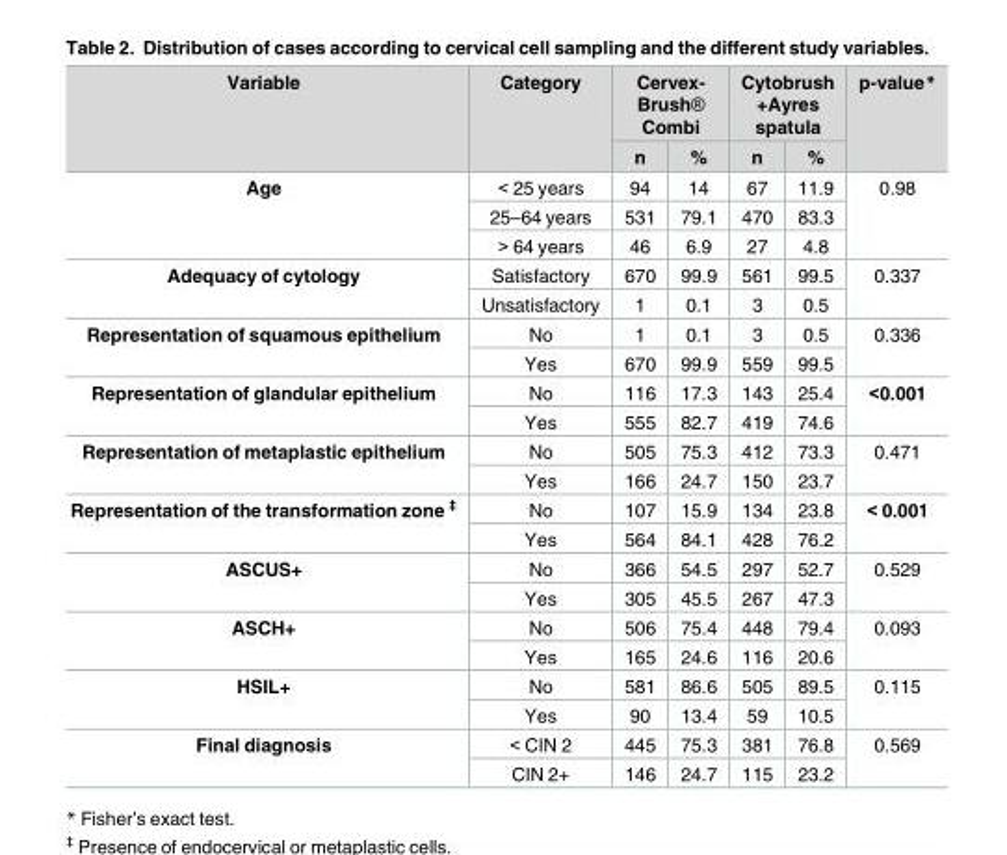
<table><thead><tr><td rowspan="2">Variable</td><td rowspan="2">Category</td><td colspan="2">Cervex- Brush® Combi</td><td colspan="2">Cytobrush +Ayres spatula</td><td rowspan="2">p-value*</td></tr><tr><td>n</td><td>%</td><td>n</td><td>%</td></tr></thead><tbody><tr><td rowspan="3">Age</td><td>&lt; 25 years</td><td>94</td><td>14</td><td>67</td><td>11.9</td><td rowspan="3">0.98</td></tr><tr><td>25–64 years</td><td>531</td><td>79.1</td><td>470</td><td>83.3</td></tr><tr><td>&gt; 64 years</td><td>46</td><td>6.9</td><td>27</td><td>4.8</td></tr><tr><td rowspan="2">Adequacy of cytology</td><td>Satisfactory</td><td>670</td><td>99.9</td><td>561</td><td>99.5</td><td rowspan="2">0.337</td></tr><tr><td>Unsatisfactory</td><td>1</td><td>0.1</td><td>3</td><td>0.5</td></tr><tr><td rowspan="2">Representation of squamous epithelium</td><td>No</td><td>1</td><td>0.1</td><td>3</td><td>0.5</td><td rowspan="2">0.336</td></tr><tr><td>Yes</td><td>670</td><td>99.9</td><td>559</td><td>99.5</td></tr><tr><td rowspan="2">Representation of glandular epithelium</td><td>No</td><td>116</td><td>17.3</td><td>143</td><td>25.4</td><td rowspan="2">&lt;0.001</td></tr><tr><td>Yes</td><td>555</td><td>82.7</td><td>419</td><td>74.6</td></tr><tr><td rowspan="2">Representation of metaplastic epithelium</td><td>No</td><td>505</td><td>75.3</td><td>412</td><td>73.3</td><td rowspan="2">0.471</td></tr><tr><td>Yes</td><td>166</td><td>24.7</td><td>150</td><td>23.7</td></tr><tr><td rowspan="2">Representation of the transformation zone <sup>‡</sup></td><td>No</td><td>107</td><td>15.9</td><td>134</td><td>23.8</td><td rowspan="2">&lt; 0.001</td></tr><tr><td>Yes</td><td>564</td><td>84.1</td><td>428</td><td>76.2</td></tr><tr><td rowspan="2">ASCUS+</td><td>No</td><td>366</td><td>54.5</td><td>297</td><td>52.7</td><td rowspan="2">0.529</td></tr><tr><td>Yes</td><td>305</td><td>45.5</td><td>267</td><td>47.3</td></tr><tr><td rowspan="2">ASCH+</td><td>No</td><td>506</td><td>75.4</td><td>448</td><td>79.4</td><td rowspan="2">0.093</td></tr><tr><td>Yes</td><td>165</td><td>24.6</td><td>116</td><td>20.6</td></tr><tr><td rowspan="2">HSIL+</td><td>No</td><td>581</td><td>86.6</td><td>505</td><td>89.5</td><td rowspan="2">0.115</td></tr><tr><td>Yes</td><td>90</td><td>13.4</td><td>59</td><td>10.5</td></tr><tr><td rowspan="2">Final diagnosis</td><td>&lt; CIN 2</td><td>445</td><td>75.3</td><td>381</td><td>76.8</td><td rowspan="2">0.569</td></tr><tr><td>CIN 2+</td><td>146</td><td>24.7</td><td>115</td><td>23.2</td></tr></tbody></table>